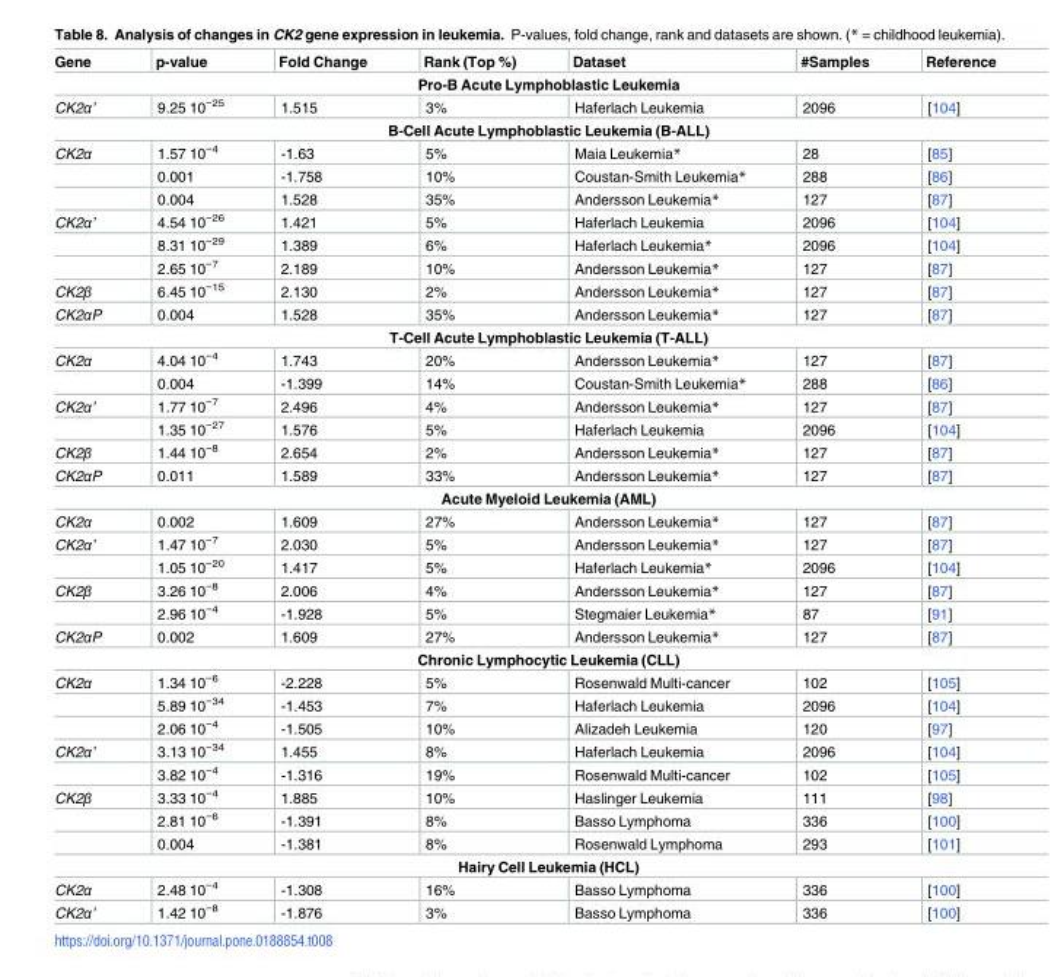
<table><thead><tr><td>Gene</td><td>p-value</td><td>Fold Change</td><td>Rank (Top %)</td><td>Dataset</td><td>#Samples</td><td>Reference</td></tr></thead><tbody><tr><td colspan="7">Pro-B Acute Lymphoblastic Leukemia</td></tr><tr><td>CK2α’</td><td>9.25 10<sup>−25</sup></td><td>1.515</td><td>3%</td><td>Haferlach Leukemia</td><td>2096</td><td>[104]</td></tr><tr><td colspan="7">B-Cell Acute Lymphoblastic Leukemia (B-ALL)</td></tr><tr><td rowspan="3">CK2α</td><td>1.57 10<sup>−4</sup></td><td>-1.63</td><td>5%</td><td>Maia Leukemia*</td><td>28</td><td>[85]</td></tr><tr><td>0.001</td><td>-1.758</td><td>10%</td><td>Coustan-Smith Leukemia*</td><td>288</td><td>[86]</td></tr><tr><td>0.004</td><td>1.528</td><td>35%</td><td>Andersson Leukemia*</td><td>127</td><td>[87]</td></tr><tr><td rowspan="3">CK2α’</td><td>4.54 10<sup>−26</sup></td><td>1.421</td><td>5%</td><td>Haferlach Leukemia</td><td>2096</td><td>[104]</td></tr><tr><td>8.31 10<sup>−29</sup></td><td>1.389</td><td>6%</td><td>Haferlach Leukemia*</td><td>2096</td><td>[104]</td></tr><tr><td>2.65 10<sup>−7</sup></td><td>2.189</td><td>10%</td><td>Andersson Leukemia*</td><td>127</td><td>[87]</td></tr><tr><td>CK2β</td><td>6.45 10<sup>−15</sup></td><td>2.130</td><td>2%</td><td>Andersson Leukemia*</td><td>127</td><td>[87]</td></tr><tr><td>CK2αP</td><td>0.004</td><td>1.528</td><td>35%</td><td>Andersson Leukemia*</td><td>127</td><td>[87]</td></tr><tr><td colspan="7">T-Cell Acute Lymphoblastic Leukemia (T-ALL)</td></tr><tr><td rowspan="2">CK2α</td><td>4.04 10<sup>−4</sup></td><td>1.743</td><td>20%</td><td>Andersson Leukemia*</td><td>127</td><td>[87]</td></tr><tr><td>0.004</td><td>-1.399</td><td>14%</td><td>Coustan-Smith Leukemia*</td><td>288</td><td>[86]</td></tr><tr><td rowspan="2">CK2α’</td><td>1.77 10<sup>−7</sup></td><td>2.496</td><td>4%</td><td>Andersson Leukemia*</td><td>127</td><td>[87]</td></tr><tr><td>1.35 10<sup>−27</sup></td><td>1.576</td><td>5%</td><td>Haferlach Leukemia</td><td>2096</td><td>[104]</td></tr><tr><td>CK2β</td><td>1.44 10<sup>−8</sup></td><td>2.654</td><td>2%</td><td>Andersson Leukemia*</td><td>127</td><td>[87]</td></tr><tr><td>CK2αP</td><td>0.011</td><td>1.589</td><td>33%</td><td>Andersson Leukemia*</td><td>127</td><td>[87]</td></tr><tr><td colspan="7">Acute Myeloid Leukemia (AML)</td></tr><tr><td>CK2α</td><td>0.002</td><td>1.609</td><td>27%</td><td>Andersson Leukemia*</td><td>127</td><td>[87]</td></tr><tr><td rowspan="2">CK2α’</td><td>1.47 10<sup>−7</sup></td><td>2.030</td><td>5%</td><td>Andersson Leukemia*</td><td>127</td><td>[87]</td></tr><tr><td>1.05 10<sup>−20</sup></td><td>1.417</td><td>5%</td><td>Haferlach Leukemia*</td><td>2096</td><td>[104]</td></tr><tr><td rowspan="2">CK2β</td><td>3.26 10<sup>−8</sup></td><td>2.006</td><td>4%</td><td>Andersson Leukemia*</td><td>127</td><td>[87]</td></tr><tr><td>2.96 10<sup>−4</sup></td><td>-1.928</td><td>5%</td><td>Stegmaier Leukemia*</td><td>87</td><td>[91]</td></tr><tr><td>CK2αP</td><td>0.002</td><td>1.609</td><td>27%</td><td>Andersson Leukemia*</td><td>127</td><td>[87]</td></tr><tr><td colspan="7">Chronic Lymphocytic Leukemia (CLL)</td></tr><tr><td rowspan="3">CK2α</td><td>1.34 10<sup>−6</sup></td><td>-2.228</td><td>5%</td><td>Rosenwald Multi-cancer</td><td>102</td><td>[105]</td></tr><tr><td>5.89 10<sup>−34</sup></td><td>-1.453</td><td>7%</td><td>Haferlach Leukemia</td><td>2096</td><td>[104]</td></tr><tr><td>2.06 10<sup>−4</sup></td><td>-1.505</td><td>10%</td><td>Alizadeh Leukemia</td><td>120</td><td>[97]</td></tr><tr><td rowspan="2">CK2α’</td><td>3.13 10<sup>−34</sup></td><td>1.455</td><td>8%</td><td>Haferlach Leukemia</td><td>2096</td><td>[104]</td></tr><tr><td>3.82 10<sup>−4</sup></td><td>-1.316</td><td>19%</td><td>Rosenwald Multi-cancer</td><td>102</td><td>[105]</td></tr><tr><td rowspan="3">CK2β</td><td>3.33 10<sup>−4</sup></td><td>1.885</td><td>10%</td><td>Haslinger Leukemia</td><td>111</td><td>[98]</td></tr><tr><td>2.81 10<sup>−6</sup></td><td>-1.391</td><td>8%</td><td>Basso Lymphoma</td><td>336</td><td>[100]</td></tr><tr><td>0.004</td><td>-1.381</td><td>8%</td><td>Rosenwald Lymphoma</td><td>293</td><td>[101]</td></tr><tr><td colspan="7">Hairy Cell Leukemia (HCL)</td></tr><tr><td>CK2α</td><td>2.48 10<sup>−4</sup></td><td>-1.308</td><td>16%</td><td>Basso Lymphoma</td><td>336</td><td>[100]</td></tr><tr><td>CK2α’</td><td>1.42 10<sup>−8</sup></td><td>-1.876</td><td>3%</td><td>Basso Lymphoma</td><td>336</td><td>[100]</td></tr></tbody></table>